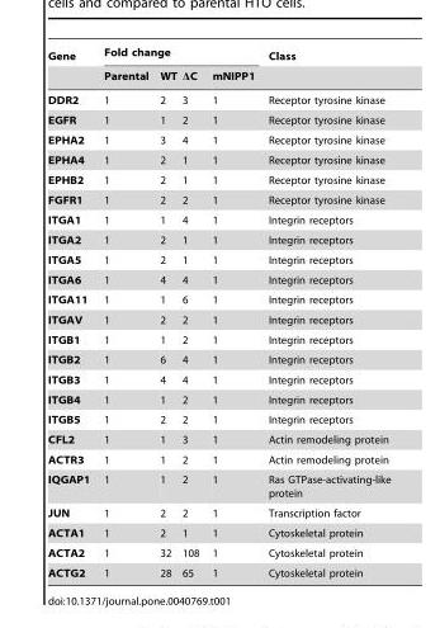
<table><thead><tr><td rowspan="2">Gene</td><td colspan="4">Fold change</td><td rowspan="2">Class</td></tr><tr><td>Parental</td><td>WT</td><td>ΔC</td><td>mNIPP1</td></tr></thead><tbody><tr><td>DDR2</td><td>1</td><td>2</td><td>3</td><td>1</td><td>Receptor tyrosine kinase</td></tr><tr><td>EGFR</td><td>1</td><td>1</td><td>2</td><td>1</td><td>Receptor tyrosine kinase</td></tr><tr><td>EPHA2</td><td>1</td><td>3</td><td>4</td><td>1</td><td>Receptor tyrosine kinase</td></tr><tr><td>EPHA4</td><td>1</td><td>2</td><td>1</td><td>1</td><td>Receptor tyrosine kinase</td></tr><tr><td>EPHB2</td><td>1</td><td>2</td><td>1</td><td>1</td><td>Receptor tyrosine kinase</td></tr><tr><td>FGFR1</td><td>1</td><td>2</td><td>2</td><td>1</td><td>Receptor tyrosine kinase</td></tr><tr><td>ITGA1</td><td>1</td><td>1</td><td>4</td><td>1</td><td>Integrin receptors</td></tr><tr><td>ITGA2</td><td>1</td><td>2</td><td>1</td><td>1</td><td>Integrin receptors</td></tr><tr><td>ITGA5</td><td>1</td><td>2</td><td>1</td><td>1</td><td>Integrin receptors</td></tr><tr><td>ITGA6</td><td>1</td><td>4</td><td>4</td><td>1</td><td>Integrin receptors</td></tr><tr><td>ITGA11</td><td>1</td><td>1</td><td>6</td><td>1</td><td>Integrin receptors</td></tr><tr><td>ITGAV</td><td>1</td><td>2</td><td>2</td><td>1</td><td>Integrin receptors</td></tr><tr><td>ITGB1</td><td>1</td><td>1</td><td>2</td><td>1</td><td>Integrin receptors</td></tr><tr><td>ITGB2</td><td>1</td><td>6</td><td>4</td><td>1</td><td>Integrin receptors</td></tr><tr><td>ITGB3</td><td>1</td><td>4</td><td>4</td><td>1</td><td>Integrin receptors</td></tr><tr><td>ITGB4</td><td>1</td><td>1</td><td>2</td><td>1</td><td>Integrin receptors</td></tr><tr><td>ITGB5</td><td>1</td><td>2</td><td>2</td><td>1</td><td>Integrin receptors</td></tr><tr><td>CFL2</td><td>1</td><td>1</td><td>3</td><td>1</td><td>Actin remodeling protein</td></tr><tr><td>ACTR3</td><td>1</td><td>1</td><td>2</td><td>1</td><td>Actin remodeling protein</td></tr><tr><td>IQGAP1</td><td>1</td><td>1</td><td>2</td><td>1</td><td>Ras GTPase-activating-like protein</td></tr><tr><td>JUN</td><td>1</td><td>2</td><td>2</td><td>1</td><td>Transcription factor</td></tr><tr><td>ACTA1</td><td>1</td><td>2</td><td>1</td><td>1</td><td>Cytoskeletal protein</td></tr><tr><td>ACTA2</td><td>1</td><td>32</td><td>108</td><td>1</td><td>Cytoskeletal protein</td></tr><tr><td>ACTG2</td><td>1</td><td>28</td><td>65</td><td>1</td><td>Cytoskeletal protein</td></tr></tbody></table>